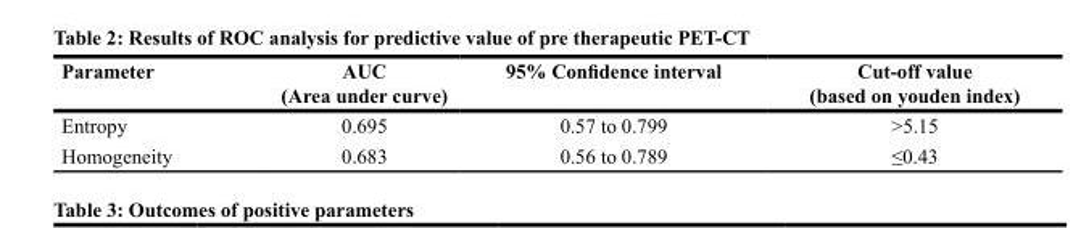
<table><thead><tr><td>Parameter</td><td>AUC (Area under curve)</td><td>95% Confidence interval</td><td>Cut-off value (based on youden index)</td></tr></thead><tbody><tr><td>Entropy</td><td>0.695</td><td>0.57 to 0.799</td><td>&gt;5.15</td></tr><tr><td>Homogeneity</td><td>0.683</td><td>0.56 to 0.789</td><td>≤0.43</td></tr></tbody></table>